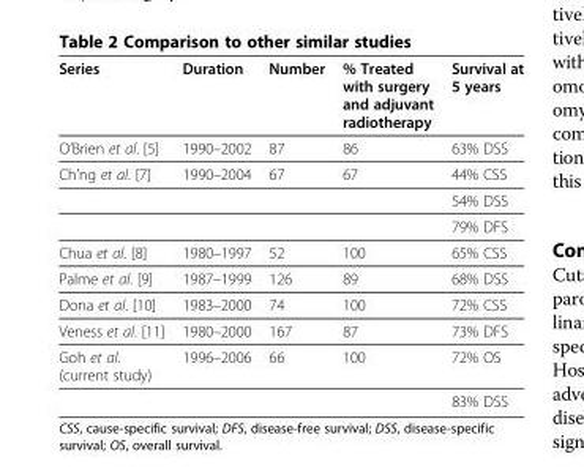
<table><thead><tr><td>Series</td><td>Duration</td><td>Number</td><td>% Treated with surgery and adjuvant radiotherapy</td><td>Survival at 5 years</td></tr></thead><tbody><tr><td>O’Brien et al. [5]</td><td>1990–2002</td><td>87</td><td>86</td><td>63% DSS</td></tr><tr><td rowspan="3">Ch’ng et al. [7]</td><td>1990–2004</td><td>67</td><td>67</td><td>44% CSS</td></tr><tr><td></td><td></td><td></td><td>54% DSS</td></tr><tr><td></td><td></td><td></td><td>79% DFS</td></tr><tr><td>Chua et al. [8]</td><td>1980–1997</td><td>52</td><td>100</td><td>65% CSS</td></tr><tr><td>Palme et al. [9]</td><td>1987–1999</td><td>126</td><td>89</td><td>68% DSS</td></tr><tr><td>Dona et al. [10]</td><td>1983–2000</td><td>74</td><td>100</td><td>72% CSS</td></tr><tr><td>Veness et al. [11]</td><td>1980–2000</td><td>167</td><td>87</td><td>73% DFS</td></tr><tr><td rowspan="2">Goh et al. (current study)</td><td>1996–2006</td><td>66</td><td>100</td><td>72% OS</td></tr><tr><td></td><td></td><td></td><td>83% DSS</td></tr></tbody></table>